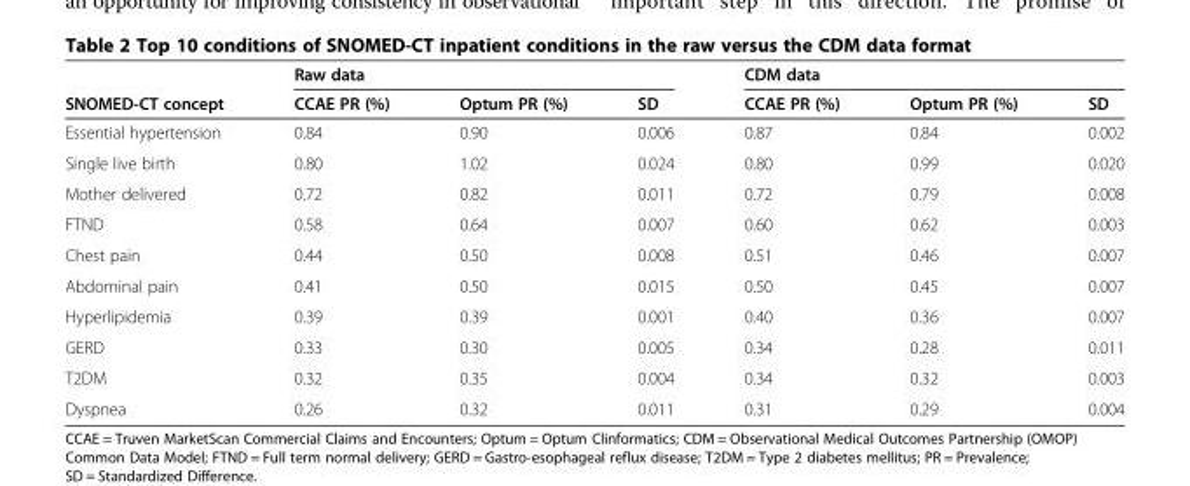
<table><thead><tr><td rowspan="2">SNOMED-CT concept</td><td colspan="3">Raw data</td><td colspan="3">CDM data</td></tr><tr><td>CCAE PR (%)</td><td>Optum PR (%)</td><td>SD</td><td>CCAE PR (%)</td><td>Optum PR (%)</td><td>SD</td></tr></thead><tbody><tr><td>Essential hypertension</td><td>0.84</td><td>0.90</td><td>0.006</td><td>0.87</td><td>0.84</td><td>0.002</td></tr><tr><td>Single live birth</td><td>0.80</td><td>1.02</td><td>0.024</td><td>0.80</td><td>0.99</td><td>0.020</td></tr><tr><td>Mother delivered</td><td>0.72</td><td>0.82</td><td>0.011</td><td>0.72</td><td>0.79</td><td>0.008</td></tr><tr><td>FTND</td><td>0.58</td><td>0.64</td><td>0.007</td><td>0.60</td><td>0.62</td><td>0.003</td></tr><tr><td>Chest pain</td><td>0.44</td><td>0.50</td><td>0.008</td><td>0.51</td><td>0.46</td><td>0.007</td></tr><tr><td>Abdominal pain</td><td>0.41</td><td>0.50</td><td>0.015</td><td>0.50</td><td>0.45</td><td>0.007</td></tr><tr><td>Hyperlipidemia</td><td>0.39</td><td>0.39</td><td>0.001</td><td>0.40</td><td>0.36</td><td>0.007</td></tr><tr><td>GERD</td><td>0.33</td><td>0.30</td><td>0.005</td><td>0.34</td><td>0.28</td><td>0.011</td></tr><tr><td>T2DM</td><td>0.32</td><td>0.35</td><td>0.004</td><td>0.34</td><td>0.32</td><td>0.003</td></tr><tr><td>Dyspnea</td><td>0.26</td><td>0.32</td><td>0.011</td><td>0.31</td><td>0.29</td><td>0.004</td></tr></tbody></table>